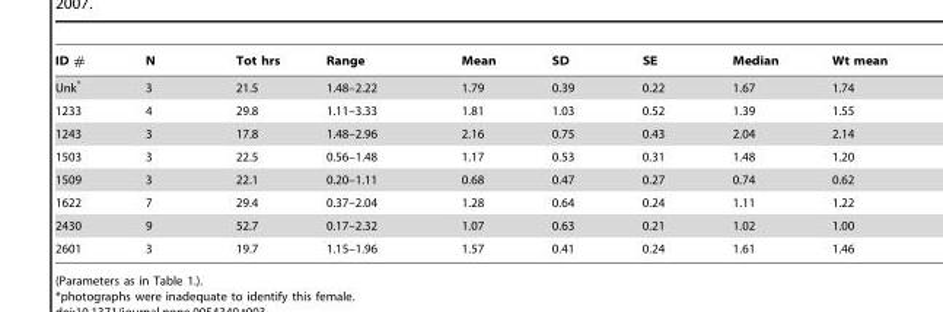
<table><thead><tr><td>ID #</td><td>N</td><td>Tot hrs</td><td>Range</td><td>Mean</td><td>SD</td><td>SE</td><td>Median</td><td>Wt mean</td></tr></thead><tbody><tr><td>Unk*</td><td>3</td><td>21.5</td><td>1.48–2.22</td><td>1.79</td><td>0.39</td><td>0.22</td><td>1.67</td><td>1.74</td></tr><tr><td>1233</td><td>4</td><td>29.8</td><td>1.11–3.33</td><td>1.81</td><td>1.03</td><td>0.52</td><td>1.39</td><td>1.55</td></tr><tr><td>1243</td><td>3</td><td>17.8</td><td>1.48–2.96</td><td>2.16</td><td>0.75</td><td>0.43</td><td>2.04</td><td>2.14</td></tr><tr><td>1503</td><td>3</td><td>22.5</td><td>0.56–1.48</td><td>1.17</td><td>0.53</td><td>0.31</td><td>1.48</td><td>1.20</td></tr><tr><td>1509</td><td>3</td><td>22.1</td><td>0.20–1.11</td><td>0.68</td><td>0.47</td><td>0.27</td><td>0.74</td><td>0.62</td></tr><tr><td>1622</td><td>7</td><td>29.4</td><td>0.37–2.04</td><td>1.28</td><td>0.64</td><td>0.24</td><td>1.11</td><td>1.22</td></tr><tr><td>2430</td><td>9</td><td>52.7</td><td>0.17–2.32</td><td>1.07</td><td>0.63</td><td>0.21</td><td>1.02</td><td>1.00</td></tr><tr><td>2601</td><td>3</td><td>19.7</td><td>1.15–1.96</td><td>1.57</td><td>0.41</td><td>0.24</td><td>1.61</td><td>1.46</td></tr></tbody></table>